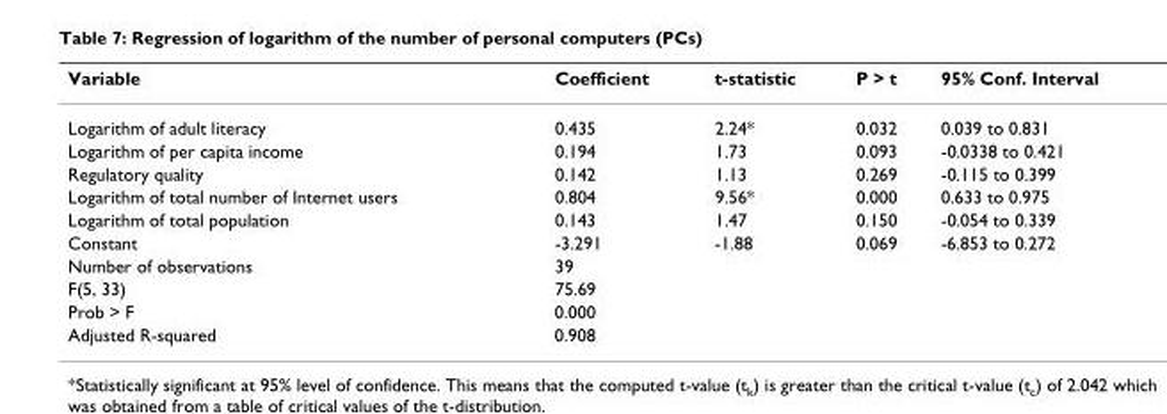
<table><thead><tr><td>Variable</td><td>Coefficient</td><td>t-statistic</td><td>P &gt; t</td><td>95% Conf. Interval</td></tr></thead><tbody><tr><td>Logarithm of adult literacy</td><td>0.435</td><td>2.24*</td><td>0.032</td><td>0.039 to 0.831</td></tr><tr><td>Logarithm of per capita income</td><td>0.194</td><td>1.73</td><td>0.093</td><td>-0.0338 to 0.421</td></tr><tr><td>Regulatory quality</td><td>0.142</td><td>1.13</td><td>0.269</td><td>-0.115 to 0.399</td></tr><tr><td>Logarithm of total number of Internet users</td><td>0.804</td><td>9.56*</td><td>0.000</td><td>0.633 to 0.975</td></tr><tr><td>Logarithm of total population</td><td>0.143</td><td>1.47</td><td>0.150</td><td>-0.054 to 0.339</td></tr><tr><td>Constant</td><td>-3.291</td><td>-1.88</td><td>0.069</td><td>-6.853 to 0.272</td></tr><tr><td>Number of observations</td><td colspan="4">39</td></tr><tr><td>F(5, 33)</td><td colspan="4">75.69</td></tr><tr><td>Prob &gt; F</td><td colspan="4">0.000</td></tr><tr><td>Adjusted R-squared</td><td colspan="4">0.908</td></tr></tbody></table>